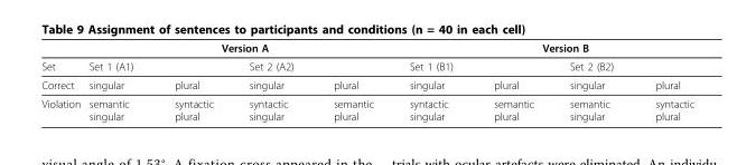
<table><thead><tr><td rowspan="3">Set Correct</td><td colspan="4">Version A</td><td colspan="4">Version B</td></tr><tr><td colspan="2">Set 1 (A1)</td><td colspan="2">Set 2 (A2)</td><td colspan="2">Set 1 (B1)</td><td colspan="2">Set 2 (B2)</td></tr><tr><td>singular</td><td>plural</td><td>singular</td><td>plural</td><td>singular</td><td>plural</td><td>singular</td><td>plural</td></tr></thead><tbody><tr><td>Violation</td><td>semantic singular</td><td>syntactic plural</td><td>syntactic singular</td><td>semantic plural</td><td>syntactic singular</td><td>semantic plural</td><td>semantic singular</td><td>syntactic plural</td></tr></tbody></table>